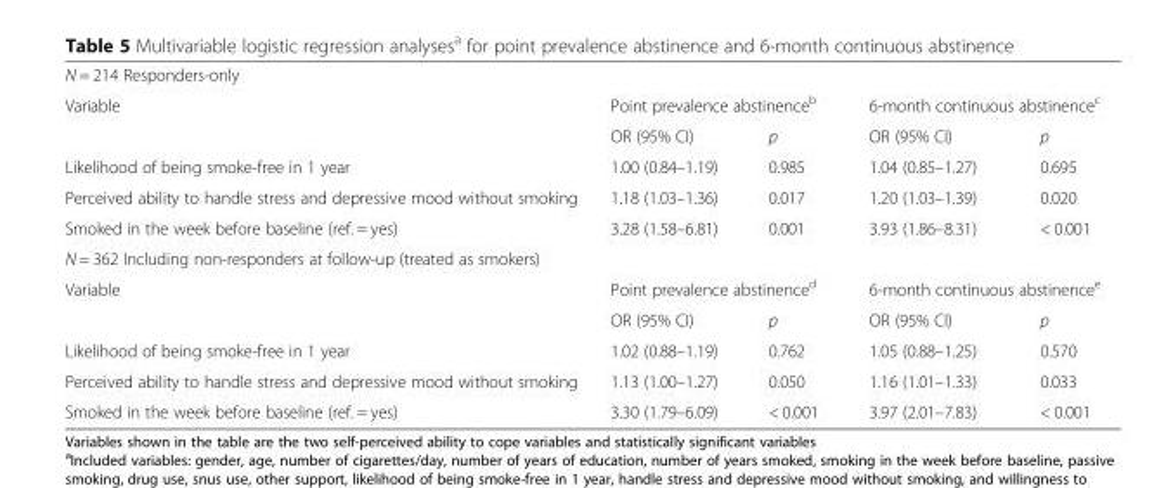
<table><tbody><tr><td colspan="5">N = 214 Responders-only</td></tr><tr><td rowspan="2">Variable</td><td colspan="2">Point prevalence abstinence<sup>b</sup></td><td colspan="2">6-month continuous abstinence<sup>c</sup></td></tr><tr><td>OR (95% CI)</td><td>p</td><td>OR (95% CI)</td><td>p</td></tr><tr><td>Likelihood of being smoke-free in 1 year</td><td>1.00 (0.84–1.19)</td><td>0.985</td><td>1.04 (0.85–1.27)</td><td>0.695</td></tr><tr><td>Perceived ability to handle stress and depressive mood without smoking</td><td>1.18 (1.03–1.36)</td><td>0.017</td><td>1.20 (1.03–1.39)</td><td>0.020</td></tr><tr><td>Smoked in the week before baseline (ref. = yes)</td><td>3.28 (1.58–6.81)</td><td>0.001</td><td>3.93 (1.86–8.31)</td><td>&lt; 0.001</td></tr><tr><td colspan="5">N = 362 Including non-responders at follow-up (treated as smokers)</td></tr><tr><td rowspan="2">Variable</td><td colspan="2">Point prevalence abstinence<sup>d</sup></td><td colspan="2">6-month continuous abstinence<sup>e</sup></td></tr><tr><td>OR (95% CI)</td><td>p</td><td>OR (95% CI)</td><td>p</td></tr><tr><td>Likelihood of being smoke-free in 1 year</td><td>1.02 (0.88–1.19)</td><td>0.762</td><td>1.05 (0.88–1.25)</td><td>0.570</td></tr><tr><td>Perceived ability to handle stress and depressive mood without smoking</td><td>1.13 (1.00–1.27)</td><td>0.050</td><td>1.16 (1.01–1.33)</td><td>0.033</td></tr><tr><td>Smoked in the week before baseline (ref. = yes)</td><td>3.30 (1.79–6.09)</td><td>&lt; 0.001</td><td>3.97 (2.01–7.83)</td><td>&lt; 0.001</td></tr></tbody></table>